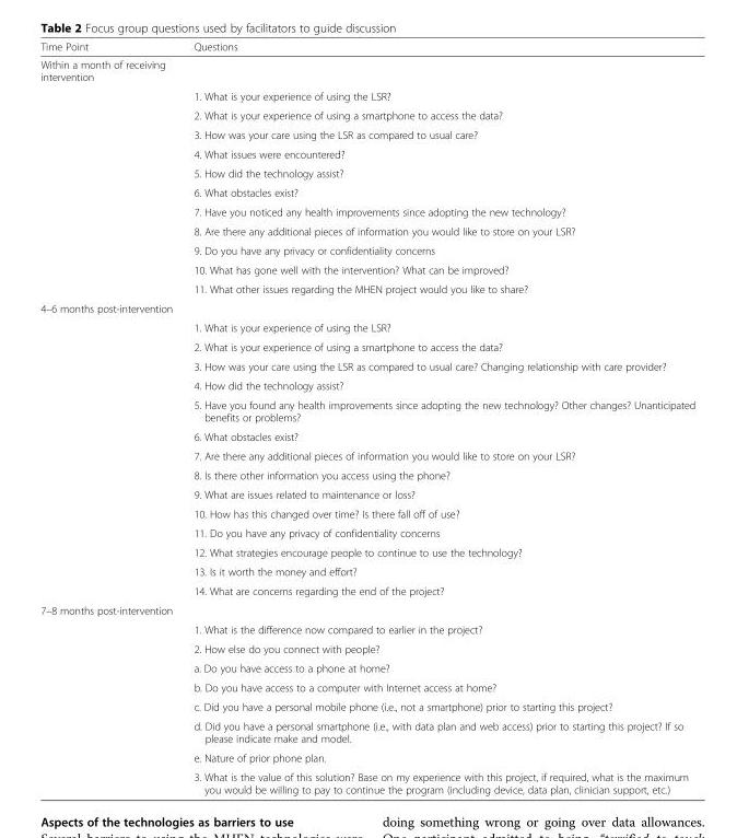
<table><thead><tr><td>Time Point</td><td>Questions</td></tr></thead><tbody><tr><td colspan="2">Within a month of receiving intervention</td></tr><tr><td></td><td>1. What is your experience of using the LSR?</td></tr><tr><td></td><td>2. What is your experience of using a smartphone to access the data?</td></tr><tr><td></td><td>3. How was your care using the LSR as compared to usual care?</td></tr><tr><td></td><td>4. What issues were encountered?</td></tr><tr><td></td><td>5. How did the technology assist?</td></tr><tr><td></td><td>6. What obstacles exist?</td></tr><tr><td></td><td>7. Have you noticed any health improvements since adopting the new technology?</td></tr><tr><td></td><td>8. Are there any additional pieces of information you would like to store on your LSR?</td></tr><tr><td></td><td>9. Do you have any privacy or confidentiality concerns</td></tr><tr><td></td><td>10. What has gone well with the intervention? What can be improved?</td></tr><tr><td></td><td>11. What other issues regarding the MHEN project would you like to share?</td></tr><tr><td colspan="2">4–6 months post-intervention</td></tr><tr><td></td><td>1. What is your experience of using the LSR?</td></tr><tr><td></td><td>2. What is your experience of using a smartphone to access the data?</td></tr><tr><td></td><td>3. How was your care using the LSR as compared to usual care? Changing relationship with care provider?</td></tr><tr><td></td><td>4. How did the technology assist?</td></tr><tr><td></td><td>5. Have you found any health improvements since adopting the new technology? Other changes? Unanticipated benefits or problems?</td></tr><tr><td></td><td>6. What obstacles exist?</td></tr><tr><td></td><td>7. Are there any additional pieces of information you would like to store on your LSR?</td></tr><tr><td></td><td>8. Is there other information you access using the phone?</td></tr><tr><td></td><td>9. What are issues related to maintenance or loss?</td></tr><tr><td></td><td>10. How has this changed over time? Is there fall off of use?</td></tr><tr><td></td><td>11. Do you have any privacy of confidentiality concerns</td></tr><tr><td></td><td>12. What strategies encourage people to continue to use the technology?</td></tr><tr><td></td><td>13. Is it worth the money and effort?</td></tr><tr><td></td><td>14. What are concerns regarding the end of the project?</td></tr><tr><td colspan="2">7–8 months post-intervention</td></tr><tr><td></td><td>1. What is the difference now compared to earlier in the project?</td></tr><tr><td></td><td>2. How else do you connect with people?</td></tr><tr><td></td><td>a. Do you have access to a phone at home?</td></tr><tr><td></td><td>b. Do you have access to a computer with Internet access at home?</td></tr><tr><td></td><td>c. Did you have a personal mobile phone (i.e., not a smartphone) prior to starting this project?</td></tr><tr><td></td><td>d. Did you have a personal smartphone (i.e., with data plan and web access) prior to starting this project? If so please indicate make and model.</td></tr><tr><td></td><td>e. Nature of prior phone plan.</td></tr><tr><td></td><td>3. What is the value of this solution? Base on my experience with this project, if required, what is the maximum you would be willing to pay to continue the program (including device, data plan, clinician support, etc.)</td></tr></tbody></table>